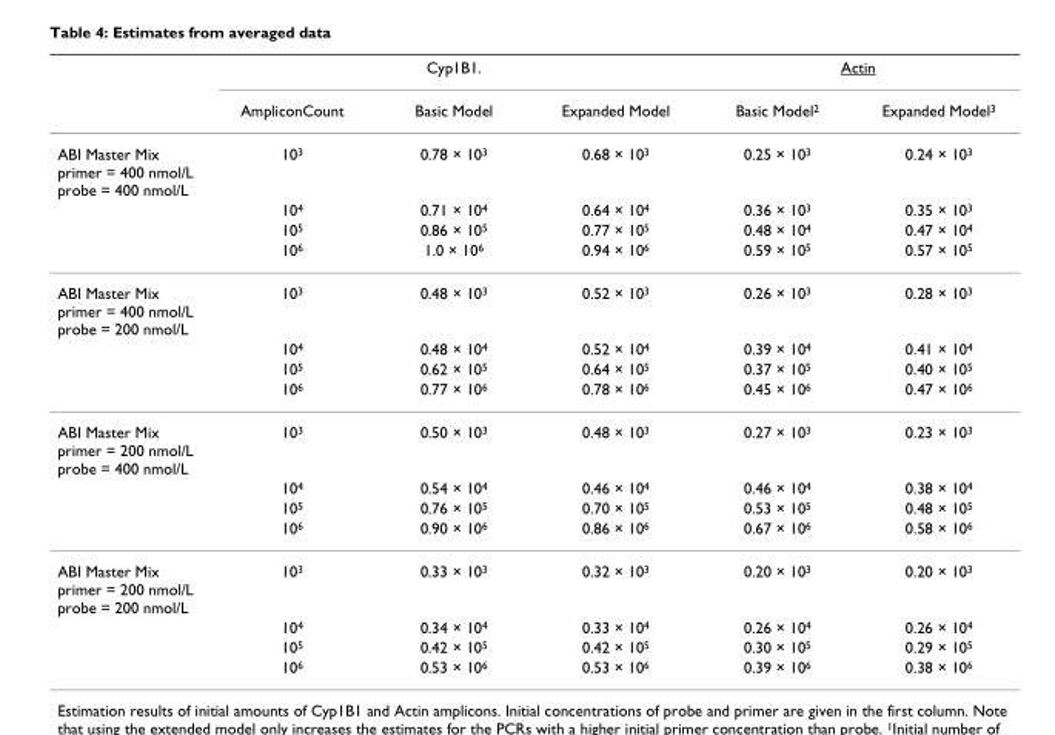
<table><thead><tr><td rowspan="2"></td><td colspan="3">Cyp1B1.</td><td colspan="2">Actin</td></tr><tr><td>AmpliconCount</td><td>Basic Model</td><td>Expanded Model</td><td>Basic Model<sup>2</sup></td><td>Expanded Model<sup>3</sup></td></tr></thead><tbody><tr><td rowspan="4">ABI Master Mix primer = 400 nmol/L probe = 400 nmol/L</td><td>10<sup>3</sup></td><td>0.78 × 10<sup>3</sup></td><td>0.68 × 10<sup>3</sup></td><td>0.25 × 10<sup>3</sup></td><td>0.24 × 10<sup>3</sup></td></tr><tr><td>10<sup>4</sup></td><td>0.71 × 10<sup>4</sup></td><td>0.64 × 10<sup>4</sup></td><td>0.36 × 10<sup>3</sup></td><td>0.35 × 10<sup>3</sup></td></tr><tr><td>10<sup>5</sup></td><td>0.86 × 10<sup>5</sup></td><td>0.77 × 10<sup>5</sup></td><td>0.48 × 10<sup>4</sup></td><td>0.47 × 10<sup>4</sup></td></tr><tr><td>10<sup>6</sup></td><td>1.0 × 10<sup>6</sup></td><td>0.94 × 10<sup>6</sup></td><td>0.59 × 10<sup>5</sup></td><td>0.57 × 10<sup>5</sup></td></tr><tr><td rowspan="4">ABI Master Mix primer = 400 nmol/L probe = 200 nmol/L</td><td>10<sup>3</sup></td><td>0.48 × 10<sup>3</sup></td><td>0.52 × 10<sup>3</sup></td><td>0.26 × 10<sup>3</sup></td><td>0.28 × 10<sup>3</sup></td></tr><tr><td>10<sup>4</sup></td><td>0.48 × 10<sup>4</sup></td><td>0.52 × 10<sup>4</sup></td><td>0.39 × 10<sup>4</sup></td><td>0.41 × 10<sup>4</sup></td></tr><tr><td>10<sup>5</sup></td><td>0.62 × 10<sup>5</sup></td><td>0.64 × 10<sup>5</sup></td><td>0.37 × 10<sup>5</sup></td><td>0.40 × 10<sup>5</sup></td></tr><tr><td>10<sup>6</sup></td><td>0.77 × 10<sup>6</sup></td><td>0.78 × 10<sup>6</sup></td><td>0.45 × 10<sup>6</sup></td><td>0.47 × 10<sup>6</sup></td></tr><tr><td rowspan="4">ABI Master Mix primer = 200 nmol/L probe = 400 nmol/L</td><td>10<sup>3</sup></td><td>0.50 × 10<sup>3</sup></td><td>0.48 × 10<sup>3</sup></td><td>0.27 × 10<sup>3</sup></td><td>0.23 × 10<sup>3</sup></td></tr><tr><td>10<sup>4</sup></td><td>0.54 × 10<sup>4</sup></td><td>0.46 × 10<sup>4</sup></td><td>0.46 × 10<sup>4</sup></td><td>0.38 × 10<sup>4</sup></td></tr><tr><td>10<sup>5</sup></td><td>0.76 × 10<sup>5</sup></td><td>0.70 × 10<sup>5</sup></td><td>0.53 × 10<sup>5</sup></td><td>0.48 × 10<sup>5</sup></td></tr><tr><td>10<sup>6</sup></td><td>0.90 × 10<sup>6</sup></td><td>0.86 × 10<sup>6</sup></td><td>0.67 × 10<sup>6</sup></td><td>0.58 × 10<sup>6</sup></td></tr><tr><td rowspan="4">ABI Master Mix primer = 200 nmol/L probe = 200 nmol/L</td><td>10<sup>3</sup></td><td>0.33 × 10<sup>3</sup></td><td>0.32 × 10<sup>3</sup></td><td>0.20 × 10<sup>3</sup></td><td>0.20 × 10<sup>3</sup></td></tr><tr><td>10<sup>4</sup></td><td>0.34 × 10<sup>4</sup></td><td>0.33 × 10<sup>4</sup></td><td>0.26 × 10<sup>4</sup></td><td>0.26 × 10<sup>4</sup></td></tr><tr><td>10<sup>5</sup></td><td>0.42 × 10<sup>5</sup></td><td>0.42 × 10<sup>5</sup></td><td>0.30 × 10<sup>5</sup></td><td>0.29 × 10<sup>5</sup></td></tr><tr><td>10<sup>6</sup></td><td>0.53 × 10<sup>6</sup></td><td>0.53 × 10<sup>6</sup></td><td>0.39 × 10<sup>6</sup></td><td>0.38 × 10<sup>6</sup></td></tr></tbody></table>